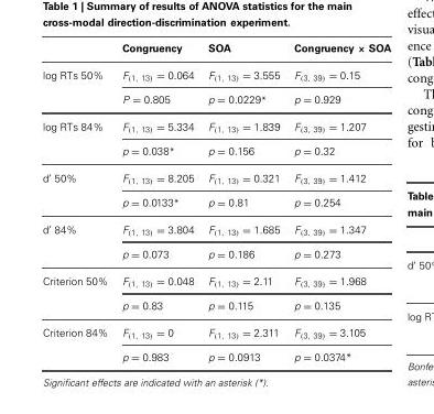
<table><thead><tr><td></td><td>Congruency</td><td>SOA</td><td>Congruency × SOA</td></tr></thead><tbody><tr><td rowspan="2">log RTs 50%</td><td>F<sub>(1, 13)</sub> = 0.064</td><td>F<sub>(1, 13)</sub> = 3.555</td><td>F<sub>(3, 39)</sub> = 0.15</td></tr><tr><td>P = 0.805</td><td>p = 0.0229*</td><td>p = 0.929</td></tr><tr><td rowspan="2">log RTs 84%</td><td>F<sub>(1, 13)</sub> = 5.334</td><td>F<sub>(1, 13)</sub> = 1.839</td><td>F<sub>(3, 39)</sub> = 1.207</td></tr><tr><td>p = 0.038*</td><td>p = 0.156</td><td>p = 0.32</td></tr><tr><td rowspan="2">d′ 50%</td><td>F<sub>(1, 13)</sub> = 8.205</td><td>F<sub>(1, 13)</sub> = 0.321</td><td>F<sub>(3, 39)</sub> = 1.412</td></tr><tr><td>p = 0.0133*</td><td>p = 0.81</td><td>p = 0.254</td></tr><tr><td rowspan="2">d′ 84%</td><td>F<sub>(1, 13)</sub> = 3.804</td><td>F<sub>(1, 13)</sub> = 1.685</td><td>F<sub>(3, 39)</sub> = 1.347</td></tr><tr><td>p = 0.073</td><td>p = 0.186</td><td>p = 0.273</td></tr><tr><td rowspan="2">Criterion 50%</td><td>F<sub>(1, 13)</sub> = 0.048</td><td>F<sub>(1, 13)</sub> = 2.11</td><td>F<sub>(3, 39)</sub> = 1.968</td></tr><tr><td>p = 0.83</td><td>p = 0.115</td><td>p = 0.135</td></tr><tr><td rowspan="2">Criterion 84%</td><td>F<sub>(1, 13)</sub> = 0</td><td>F<sub>(1, 13)</sub> = 2.311</td><td>F<sub>(3, 39)</sub> = 3.105</td></tr><tr><td>p = 0.983</td><td>p = 0.0913</td><td>p = 0.0374*</td></tr></tbody></table>